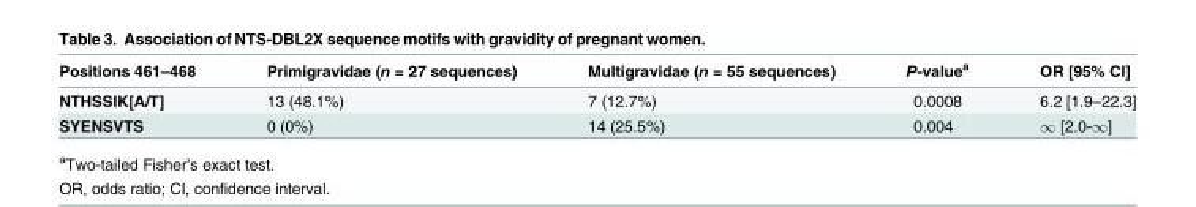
<table><thead><tr><td>Positions 461–468</td><td>Primigravidae (n = 27 sequences)</td><td>Multigravidae (n = 55 sequences)</td><td>P-value<sup>a</sup></td><td>OR [95% CI]</td></tr></thead><tbody><tr><td>NTHSSIK[A/T]</td><td>13 (48.1%)</td><td>7 (12.7%)</td><td>0.0008</td><td>6.2 [1.9–22.3]</td></tr><tr><td>SYENSVTS</td><td>0 (0%)</td><td>14 (25.5%)</td><td>0.004</td><td>∞ [2.0-∞]</td></tr></tbody></table>